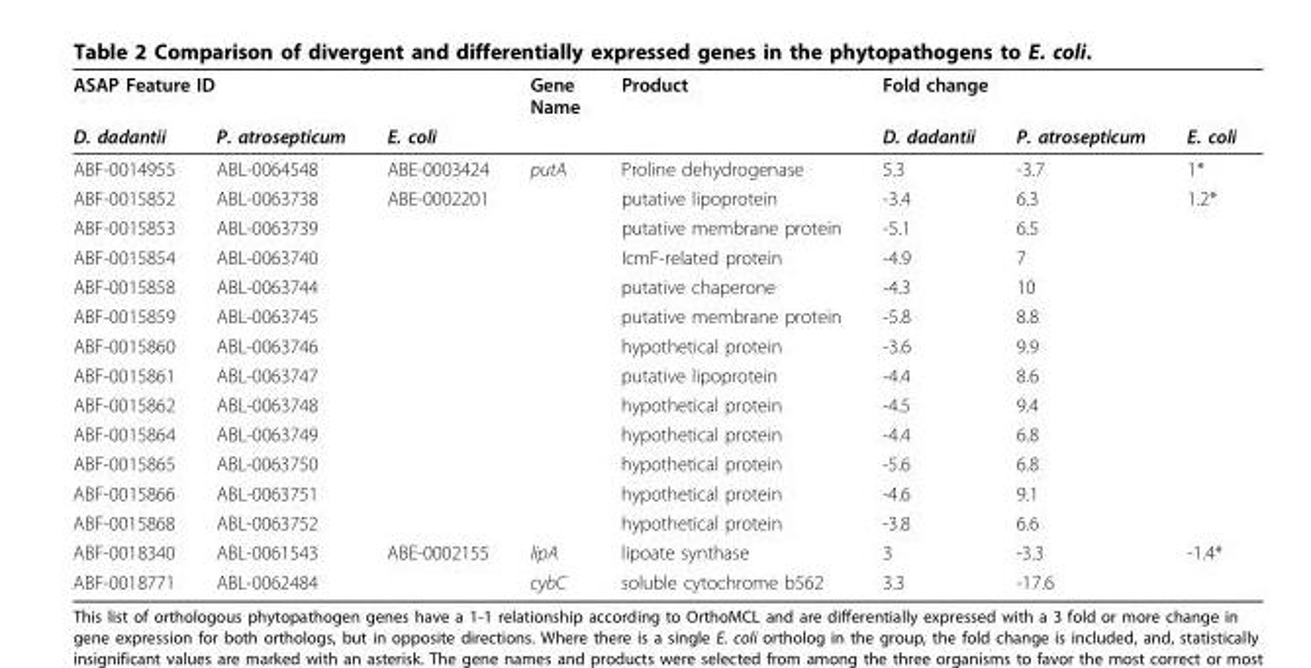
<table><thead><tr><td colspan="3">ASAP Feature ID</td><td rowspan="2">Gene Name</td><td rowspan="2">Product</td><td colspan="3">Fold change</td></tr><tr><td>D. dadantii</td><td>P. atrosepticum</td><td>E. coli</td><td>D. dadantii</td><td>P. atrosepticum</td><td>E. coli</td></tr></thead><tbody><tr><td>ABF-0014955</td><td>ABL-0064548</td><td>ABE-0003424</td><td>putA</td><td>Proline dehydrogenase</td><td>5.3</td><td>-3.7</td><td>1*</td></tr><tr><td>ABF-0015852</td><td>ABL-0063738</td><td>ABE-0002201</td><td></td><td>putative lipoprotein</td><td>-3.4</td><td>6.3</td><td>1.2*</td></tr><tr><td>ABF-0015853</td><td>ABL-0063739</td><td></td><td></td><td>putative membrane protein</td><td>-5.1</td><td>6.5</td><td></td></tr><tr><td>ABF-0015854</td><td>ABL-0063740</td><td></td><td></td><td>IcmF-related protein</td><td>-4.9</td><td>7</td><td></td></tr><tr><td>ABF-0015858</td><td>ABL-0063744</td><td></td><td></td><td>putative chaperone</td><td>-4.3</td><td>10</td><td></td></tr><tr><td>ABF-0015859</td><td>ABL-0063745</td><td></td><td></td><td>putative membrane protein</td><td>-5.8</td><td>8.8</td><td></td></tr><tr><td>ABF-0015860</td><td>ABL-0063746</td><td></td><td></td><td>hypothetical protein</td><td>-3.6</td><td>9.9</td><td></td></tr><tr><td>ABF-0015861</td><td>ABL-0063747</td><td></td><td></td><td>putative lipoprotein</td><td>-4.4</td><td>8.6</td><td></td></tr><tr><td>ABF-0015862</td><td>ABL-0063748</td><td></td><td></td><td>hypothetical protein</td><td>-4.5</td><td>9.4</td><td></td></tr><tr><td>ABF-0015864</td><td>ABL-0063749</td><td></td><td></td><td>hypothetical protein</td><td>-4.4</td><td>6.8</td><td></td></tr><tr><td>ABF-0015865</td><td>ABL-0063750</td><td></td><td></td><td>hypothetical protein</td><td>-5.6</td><td>6.8</td><td></td></tr><tr><td>ABF-0015866</td><td>ABL-0063751</td><td></td><td></td><td>hypothetical protein</td><td>-4.6</td><td>9.1</td><td></td></tr><tr><td>ABF-0015868</td><td>ABL-0063752</td><td></td><td></td><td>hypothetical protein</td><td>-3.8</td><td>6.6</td><td></td></tr><tr><td>ABF-0018340</td><td>ABL-0061543</td><td>ABE-0002155</td><td>lipA</td><td>lipoate synthase</td><td>3</td><td>-3.3</td><td>-1.4*</td></tr><tr><td>ABF-0018771</td><td>ABL-0062484</td><td></td><td>cybC</td><td>soluble cytochrome b562</td><td>3.3</td><td>-17.6</td><td></td></tr></tbody></table>